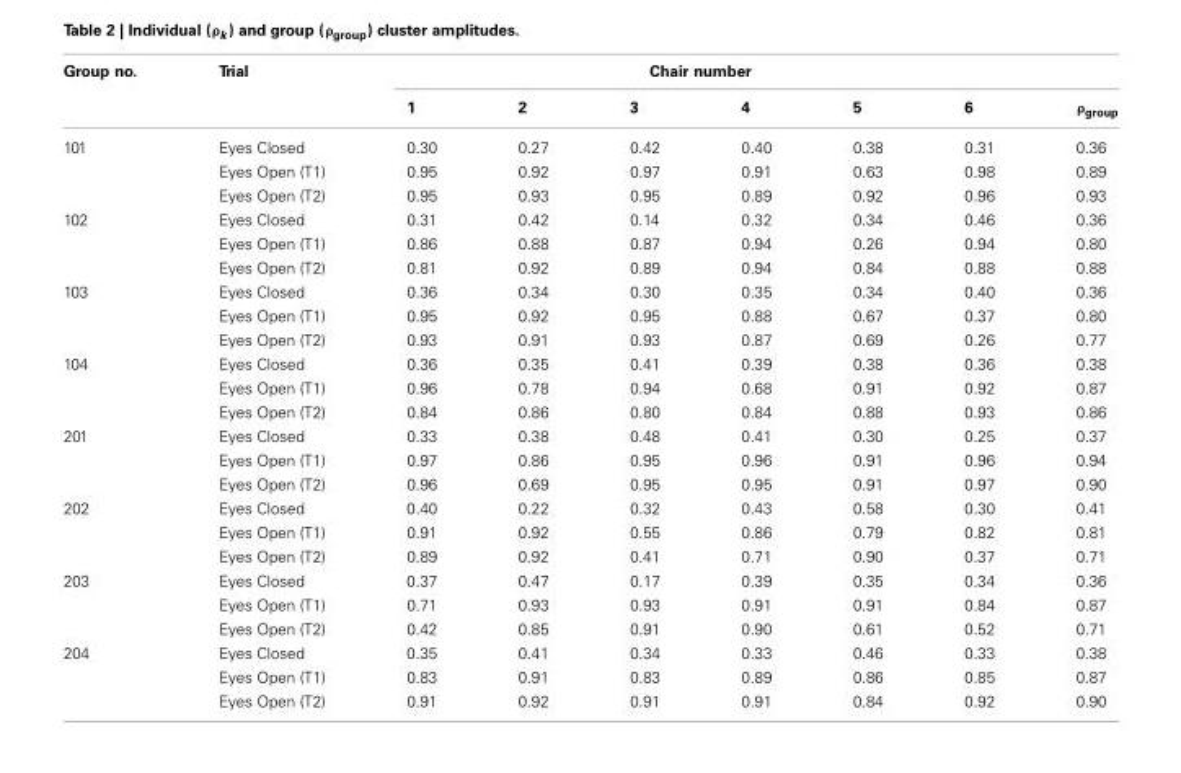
<table><thead><tr><td rowspan="2">Group no.</td><td rowspan="2">Trial</td><td colspan="6">Chair number</td><td rowspan="2">ρ<sub>group</sub></td></tr><tr><td>1</td><td>2</td><td>3</td><td>4</td><td>5</td><td>6</td></tr></thead><tbody><tr><td rowspan="3">101</td><td>Eyes Closed</td><td>0.30</td><td>0.27</td><td>0.42</td><td>0.40</td><td>0.38</td><td>0.31</td><td>0.36</td></tr><tr><td>Eyes Open (T1)</td><td>0.95</td><td>0.92</td><td>0.97</td><td>0.91</td><td>0.63</td><td>0.98</td><td>0.89</td></tr><tr><td>Eyes Open (T2)</td><td>0.95</td><td>0.93</td><td>0.95</td><td>0.89</td><td>0.92</td><td>0.96</td><td>0.93</td></tr><tr><td rowspan="3">102</td><td>Eyes Closed</td><td>0.31</td><td>0.42</td><td>0.14</td><td>0.32</td><td>0.34</td><td>0.46</td><td>0.36</td></tr><tr><td>Eyes Open (T1)</td><td>0.86</td><td>0.88</td><td>0.87</td><td>0.94</td><td>0.26</td><td>0.94</td><td>0.80</td></tr><tr><td>Eyes Open (T2)</td><td>0.81</td><td>0.92</td><td>0.89</td><td>0.94</td><td>0.84</td><td>0.88</td><td>0.88</td></tr><tr><td rowspan="3">103</td><td>Eyes Closed</td><td>0.36</td><td>0.34</td><td>0.30</td><td>0.35</td><td>0.34</td><td>0.40</td><td>0.36</td></tr><tr><td>Eyes Open (T1)</td><td>0.95</td><td>0.92</td><td>0.95</td><td>0.88</td><td>0.67</td><td>0.37</td><td>0.80</td></tr><tr><td>Eyes Open (T2)</td><td>0.93</td><td>0.91</td><td>0.93</td><td>0.87</td><td>0.69</td><td>0.26</td><td>0.77</td></tr><tr><td rowspan="3">104</td><td>Eyes Closed</td><td>0.36</td><td>0.35</td><td>0.41</td><td>0.39</td><td>0.38</td><td>0.36</td><td>0.38</td></tr><tr><td>Eyes Open (T1)</td><td>0.96</td><td>0.78</td><td>0.94</td><td>0.68</td><td>0.91</td><td>0.92</td><td>0.87</td></tr><tr><td>Eyes Open (T2)</td><td>0.84</td><td>0.86</td><td>0.80</td><td>0.84</td><td>0.88</td><td>0.93</td><td>0.86</td></tr><tr><td rowspan="3">201</td><td>Eyes Closed</td><td>0.33</td><td>0.38</td><td>0.48</td><td>0.41</td><td>0.30</td><td>0.25</td><td>0.37</td></tr><tr><td>Eyes Open (T1)</td><td>0.97</td><td>0.86</td><td>0.95</td><td>0.96</td><td>0.91</td><td>0.96</td><td>0.94</td></tr><tr><td>Eyes Open (T2)</td><td>0.96</td><td>0.69</td><td>0.95</td><td>0.95</td><td>0.91</td><td>0.97</td><td>0.90</td></tr><tr><td rowspan="3">202</td><td>Eyes Closed</td><td>0.40</td><td>0.22</td><td>0.32</td><td>0.43</td><td>0.58</td><td>0.30</td><td>0.41</td></tr><tr><td>Eyes Open (T1)</td><td>0.91</td><td>0.92</td><td>0.55</td><td>0.86</td><td>0.79</td><td>0.82</td><td>0.81</td></tr><tr><td>Eyes Open (T2)</td><td>0.89</td><td>0.92</td><td>0.41</td><td>0.71</td><td>0.90</td><td>0.37</td><td>0.71</td></tr><tr><td rowspan="3">203</td><td>Eyes Closed</td><td>0.37</td><td>0.47</td><td>0.17</td><td>0.39</td><td>0.35</td><td>0.34</td><td>0.36</td></tr><tr><td>Eyes Open (T1)</td><td>0.71</td><td>0.93</td><td>0.93</td><td>0.91</td><td>0.91</td><td>0.84</td><td>0.87</td></tr><tr><td>Eyes Open (T2)</td><td>0.42</td><td>0.85</td><td>0.91</td><td>0.90</td><td>0.61</td><td>0.52</td><td>0.71</td></tr><tr><td rowspan="3">204</td><td>Eyes Closed</td><td>0.35</td><td>0.41</td><td>0.34</td><td>0.33</td><td>0.46</td><td>0.33</td><td>0.38</td></tr><tr><td>Eyes Open (T1)</td><td>0.83</td><td>0.91</td><td>0.83</td><td>0.89</td><td>0.86</td><td>0.85</td><td>0.87</td></tr><tr><td>Eyes Open (T2)</td><td>0.91</td><td>0.92</td><td>0.91</td><td>0.91</td><td>0.84</td><td>0.92</td><td>0.90</td></tr></tbody></table>